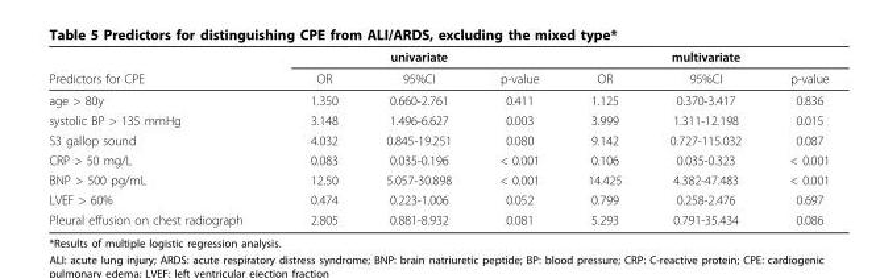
<table><thead><tr><td rowspan="2">Predictors for CPE</td><td rowspan="2">OR</td><td rowspan="2">univariate 95%CI</td><td rowspan="2">p-value</td><td rowspan="2">OR</td><td rowspan="2">multivariate 95%CI</td><td rowspan="2">p-value</td></tr><tr></tr></thead><tbody><tr><td>age &gt; 80y</td><td>1.350</td><td>0.660-2.761</td><td>0.411</td><td>1.125</td><td>0.370-3.417</td><td>0.836</td></tr><tr><td>systolic BP &gt; 135 mmHg</td><td>3.148</td><td>1.496-6.627</td><td>0.003</td><td>3.999</td><td>1.311-12.198</td><td>0.015</td></tr><tr><td>S3 gallop sound</td><td>4.032</td><td>0.845-19.251</td><td>0.080</td><td>9.142</td><td>0.727-115.032</td><td>0.087</td></tr><tr><td>CRP &gt; 50 mg/L</td><td>0.083</td><td>0.035-0.196</td><td>&lt; 0.001</td><td>0.106</td><td>0.035-0.323</td><td>&lt; 0.001</td></tr><tr><td>BNP &gt; 500 pg/mL</td><td>12.50</td><td>5.057-30.898</td><td>&lt; 0.001</td><td>14.425</td><td>4.382-47.483</td><td>&lt; 0.001</td></tr><tr><td>LVEF &gt; 60%</td><td>0.474</td><td>0.223-1.006</td><td>0.052</td><td>0.799</td><td>0.258-2.476</td><td>0.697</td></tr><tr><td>Pleural effusion on chest radiograph</td><td>2.805</td><td>0.881-8.932</td><td>0.081</td><td>5.293</td><td>0.791-35.434</td><td>0.086</td></tr></tbody></table>